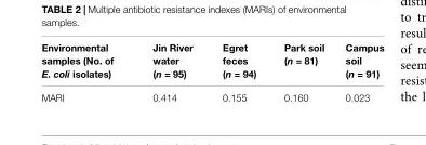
<table><thead><tr><td>Environmental samples (No. of E. coli isolates)</td><td>Jin River water (n = 95)</td><td>Egret feces (n = 94)</td><td>Park soil (n = 81)</td><td>Campus soil (n = 91)</td></tr></thead><tbody><tr><td>MARI</td><td>0.414</td><td>0.155</td><td>0.160</td><td>0.023</td></tr></tbody></table>